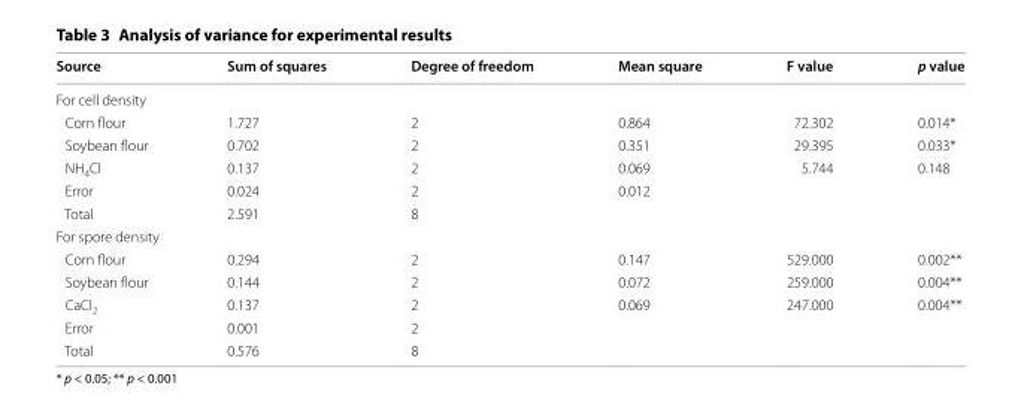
<table><thead><tr><td>Source</td><td>Sum of squares</td><td>Degree of freedom</td><td>Mean square</td><td>F value</td><td>p value</td></tr></thead><tbody><tr><td colspan="6">For cell density</td></tr><tr><td>Corn flour</td><td>1.727</td><td>2</td><td>0.864</td><td>72.302</td><td>0.014*</td></tr><tr><td>Soybean flour</td><td>0.702</td><td>2</td><td>0.351</td><td>29.395</td><td>0.033*</td></tr><tr><td>NH<sub>4</sub>Cl</td><td>0.137</td><td>2</td><td>0.069</td><td>5.744</td><td>0.148</td></tr><tr><td>Error</td><td>0.024</td><td>2</td><td>0.012</td><td></td><td></td></tr><tr><td>Total</td><td>2.591</td><td>8</td><td></td><td></td><td></td></tr><tr><td colspan="6">For spore density</td></tr><tr><td>Corn flour</td><td>0.294</td><td>2</td><td>0.147</td><td>529.000</td><td>0.002**</td></tr><tr><td>Soybean flour</td><td>0.144</td><td>2</td><td>0.072</td><td>259.000</td><td>0.004**</td></tr><tr><td>CaCl<sub>2</sub></td><td>0.137</td><td>2</td><td>0.069</td><td>247.000</td><td>0.004**</td></tr><tr><td>Error</td><td>0.001</td><td>2</td><td></td><td></td><td></td></tr><tr><td>Total</td><td>0.576</td><td>8</td><td></td><td></td><td></td></tr></tbody></table>